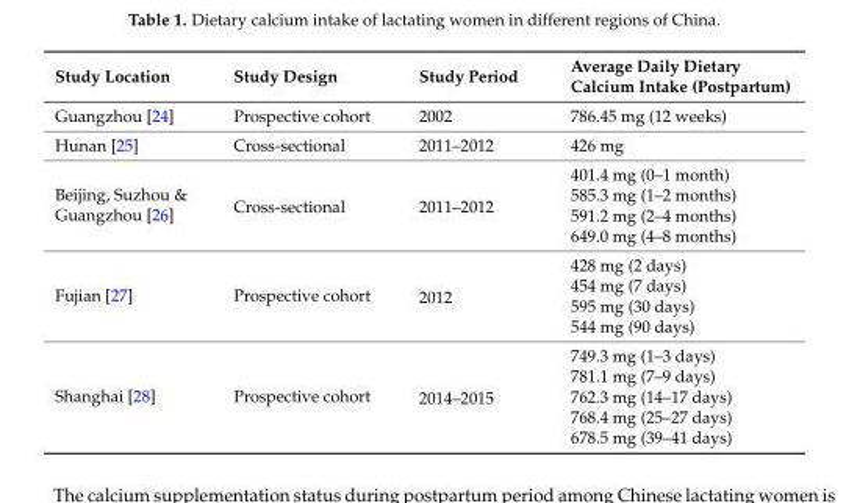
<table><thead><tr><td>Study Location</td><td>Study Design</td><td>Study Period</td><td>Average Daily Dietary Calcium Intake (Postpartum)</td></tr></thead><tbody><tr><td>Guangzhou [24]</td><td>Prospective cohort</td><td>2002</td><td>786.45 mg (12 weeks)</td></tr><tr><td>Hunan [25]</td><td>Cross-sectional</td><td>2011–2012</td><td>426 mg</td></tr><tr><td rowspan="4">Beijing, Suzhou &amp; Guangzhou [26]</td><td rowspan="4">Cross-sectional</td><td rowspan="4">2011–2012</td><td>401.4 mg (0–1 month)</td></tr><tr><td>585.3 mg (1–2 months)</td></tr><tr><td>591.2 mg (2–4 months)</td></tr><tr><td>649.0 mg (4–8 months)</td></tr><tr><td rowspan="4">Fujian [27]</td><td rowspan="4">Prospective cohort</td><td rowspan="4">2012</td><td>428 mg (2 days)</td></tr><tr><td>454 mg (7 days)</td></tr><tr><td>595 mg (30 days)</td></tr><tr><td>544 mg (90 days)</td></tr><tr><td rowspan="5">Shanghai [28]</td><td rowspan="5">Prospective cohort</td><td rowspan="5">2014–2015</td><td>749.3 mg (1–3 days)</td></tr><tr><td>781.1 mg (7–9 days)</td></tr><tr><td>762.3 mg (14–17 days)</td></tr><tr><td>768.4 mg (25–27 days)</td></tr><tr><td>678.5 mg (39–41 days)</td></tr></tbody></table>